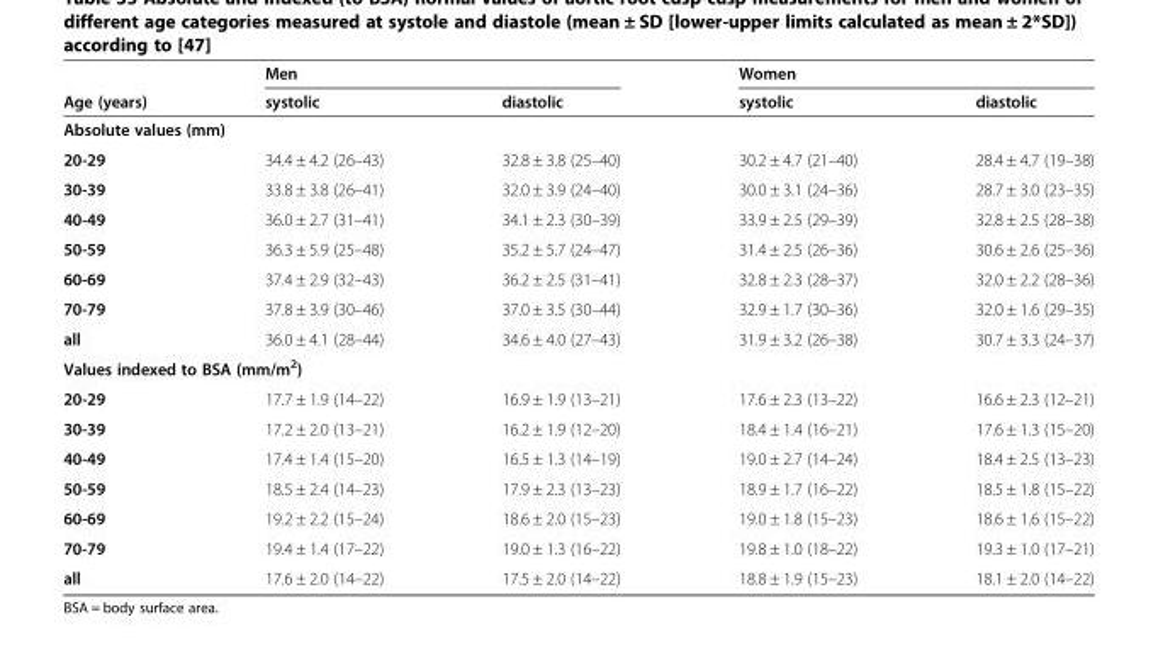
<table><thead><tr><td rowspan="2">Age (years)</td><td colspan="2">Men</td><td colspan="2">Women</td></tr><tr><td>systolic</td><td>diastolic</td><td>systolic</td><td>diastolic</td></tr></thead><tbody><tr><td colspan="5">Absolute values (mm)</td></tr><tr><td>20-29</td><td>34.4 ± 4.2 (26–43)</td><td>32.8 ± 3.8 (25–40)</td><td>30.2 ± 4.7 (21–40)</td><td>28.4 ± 4.7 (19–38)</td></tr><tr><td>30-39</td><td>33.8 ± 3.8 (26–41)</td><td>32.0 ± 3.9 (24–40)</td><td>30.0 ± 3.1 (24–36)</td><td>28.7 ± 3.0 (23–35)</td></tr><tr><td>40-49</td><td>36.0 ± 2.7 (31–41)</td><td>34.1 ± 2.3 (30–39)</td><td>33.9 ± 2.5 (29–39)</td><td>32.8 ± 2.5 (28–38)</td></tr><tr><td>50-59</td><td>36.3 ± 5.9 (25–48)</td><td>35.2 ± 5.7 (24–47)</td><td>31.4 ± 2.5 (26–36)</td><td>30.6 ± 2.6 (25–36)</td></tr><tr><td>60-69</td><td>37.4 ± 2.9 (32–43)</td><td>36.2 ± 2.5 (31–41)</td><td>32.8 ± 2.3 (28–37)</td><td>32.0 ± 2.2 (28–36)</td></tr><tr><td>70-79</td><td>37.8 ± 3.9 (30–46)</td><td>37.0 ± 3.5 (30–44)</td><td>32.9 ± 1.7 (30–36)</td><td>32.0 ± 1.6 (29–35)</td></tr><tr><td>all</td><td>36.0 ± 4.1 (28–44)</td><td>34.6 ± 4.0 (27–43)</td><td>31.9 ± 3.2 (26–38)</td><td>30.7 ± 3.3 (24–37)</td></tr><tr><td colspan="5">Values indexed to BSA (mm/m<sup>2</sup>)</td></tr><tr><td>20-29</td><td>17.7 ± 1.9 (14–22)</td><td>16.9 ± 1.9 (13–21)</td><td>17.6 ± 2.3 (13–22)</td><td>16.6 ± 2.3 (12–21)</td></tr><tr><td>30-39</td><td>17.2 ± 2.0 (13–21)</td><td>16.2 ± 1.9 (12–20)</td><td>18.4 ± 1.4 (16–21)</td><td>17.6 ± 1.3 (15–20)</td></tr><tr><td>40-49</td><td>17.4 ± 1.4 (15–20)</td><td>16.5 ± 1.3 (14–19)</td><td>19.0 ± 2.7 (14–24)</td><td>18.4 ± 2.5 (13–23)</td></tr><tr><td>50-59</td><td>18.5 ± 2.4 (14–23)</td><td>17.9 ± 2.3 (13–23)</td><td>18.9 ± 1.7 (16–22)</td><td>18.5 ± 1.8 (15–22)</td></tr><tr><td>60-69</td><td>19.2 ± 2.2 (15–24)</td><td>18.6 ± 2.0 (15–23)</td><td>19.0 ± 1.8 (15–23)</td><td>18.6 ± 1.6 (15–22)</td></tr><tr><td>70-79</td><td>19.4 ± 1.4 (17–22)</td><td>19.0 ± 1.3 (16–22)</td><td>19.8 ± 1.0 (18–22)</td><td>19.3 ± 1.0 (17–21)</td></tr><tr><td>all</td><td>17.6 ± 2.0 (14–22)</td><td>17.5 ± 2.0 (14–22)</td><td>18.8 ± 1.9 (15–23)</td><td>18.1 ± 2.0 (14–22)</td></tr></tbody></table>